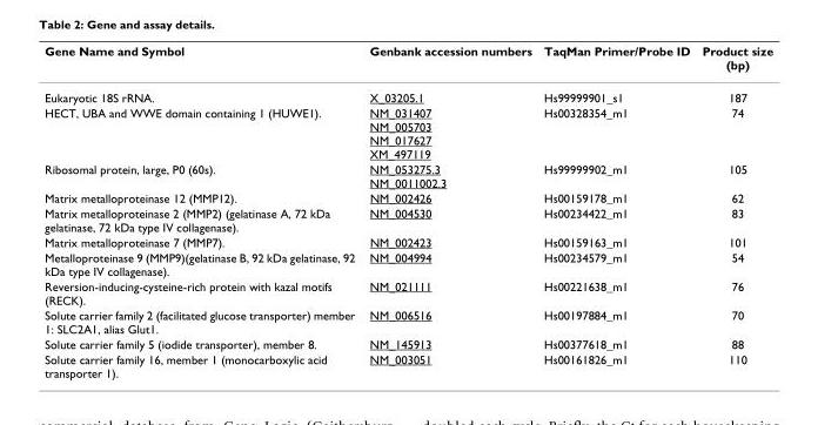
<table><thead><tr><td>Gene Name and Symbol</td><td>Genbank accession numbers</td><td>TaqMan Primer/Probe ID</td><td>Product size (bp)</td></tr></thead><tbody><tr><td>Eukaryotic 18S rRNA.</td><td>X_03205.1</td><td>Hs99999901_s1</td><td>187</td></tr><tr><td>HECT, UBA and WWE domain containing 1 (HUWE1).</td><td>NM_031407 NM_005703 NM_017627 XM_497119</td><td>Hs00328354_m1</td><td>74</td></tr><tr><td>Ribosomal protein, large, P0 (60s).</td><td>NM_053275.3 NM_0011002.3</td><td>Hs99999902_m1</td><td>105</td></tr><tr><td>Matrix metalloproteinase 12 (MMP12).</td><td>NM_002426</td><td>Hs00159178_m1</td><td>62</td></tr><tr><td>Matrix metalloproteinase 2 (MMP2) (gelatinase A, 72 kDa gelatinase, 72 kDa type IV collagenase).</td><td>NM_004530</td><td>Hs00234422_m1</td><td>83</td></tr><tr><td>Matrix metalloproteinase 7 (MMP7).</td><td>NM_002423</td><td>Hs00159163_m1</td><td>101</td></tr><tr><td>Metalloproteinase 9 (MMP9)(gelatinase B, 92 kDa gelatinase, 92 kDa type IV collagenase).</td><td>NM_004994</td><td>Hs00234579_m1</td><td>54</td></tr><tr><td>Reversion-inducing-cysteine-rich protein with kazal motifs (RECK).</td><td>NM_021111</td><td>Hs00221638_m1</td><td>76</td></tr><tr><td>Solute carrier family 2 (facilitated glucose transporter) member 1: SLC2A1, alias Glut1.</td><td>NM_006516</td><td>Hs00197884_m1</td><td>70</td></tr><tr><td>Solute carrier family 5 (iodide transporter), member 8.</td><td>NM_145913</td><td>Hs00377618_m1</td><td>88</td></tr><tr><td>Solute carrier family 16, member 1 (monocarboxylic acid transporter 1).</td><td>NM_003051</td><td>Hs00161826_m1</td><td>110</td></tr></tbody></table>